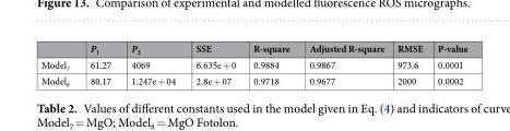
<table><thead><tr><td></td><td>P1</td><td>P2</td><td>SSE</td><td>R-square</td><td>Adjusted R-square</td><td>RMSE</td><td>P-value</td></tr></thead><tbody><tr><td>Model7</td><td>61.27</td><td>4069</td><td>6.635e + 0</td><td>0.9884</td><td>0.9867</td><td>973.6</td><td>0.0001</td></tr><tr><td>Model8</td><td>80.17</td><td>1.247e + 04</td><td>2.8e + 07</td><td>0.9718</td><td>0.9677</td><td>2000</td><td>0.0002</td></tr></tbody></table>